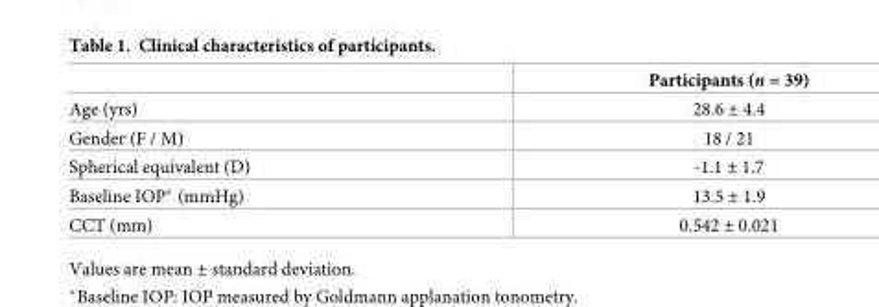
<table><thead><tr><td></td><td>Participants (n = 39)</td></tr></thead><tbody><tr><td>Age (yrs)</td><td>28.6 ± 4.4</td></tr><tr><td>Gender (F / M)</td><td>18 / 21</td></tr><tr><td>Spherical equivalent (D)</td><td>-1.1 ± 1.7</td></tr><tr><td>Baseline IOP* (mmHg)</td><td>13.5 ± 1.9</td></tr><tr><td>CCT (mm)</td><td>0.542 ± 0.021</td></tr></tbody></table>